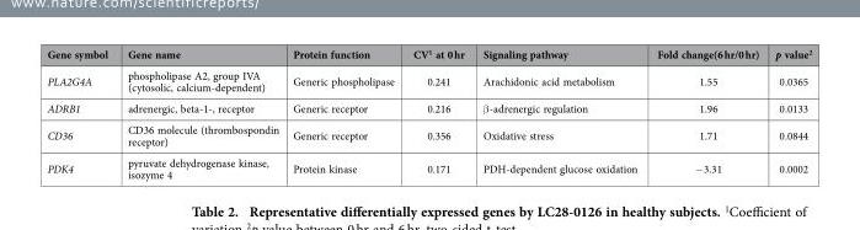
<table><thead><tr><td>Gene symbol</td><td>Gene name</td><td>Protein function</td><td>CV<sup>1</sup> at 0 hr</td><td>Signaling pathway</td><td>Fold change(6 hr/0 hr)</td><td>p value<sup>2</sup></td></tr></thead><tbody><tr><td>PLA2G4A</td><td>phospholipase A2, group IVA (cytosolic, calcium-dependent)</td><td>Generic phospholipase</td><td>0.241</td><td>Arachidonic acid metabolism</td><td>1.55</td><td>0.0365</td></tr><tr><td>ADRB1</td><td>adrenergic, beta-1-, receptor</td><td>Generic receptor</td><td>0.216</td><td>β -adrenergic regulation</td><td>1.96</td><td>0.0133</td></tr><tr><td>CD36</td><td>CD36 molecule (thrombospondin receptor)</td><td>Generic receptor</td><td>0.356</td><td>Oxidative stress</td><td>1.71</td><td>0.0844</td></tr><tr><td>PDK4</td><td>pyruvate dehydrogenase kinase, isozyme 4</td><td>Protein kinase</td><td>0.171</td><td>PDH-dependent glucose oxidation</td><td>−3.31</td><td>0.0002</td></tr></tbody></table>